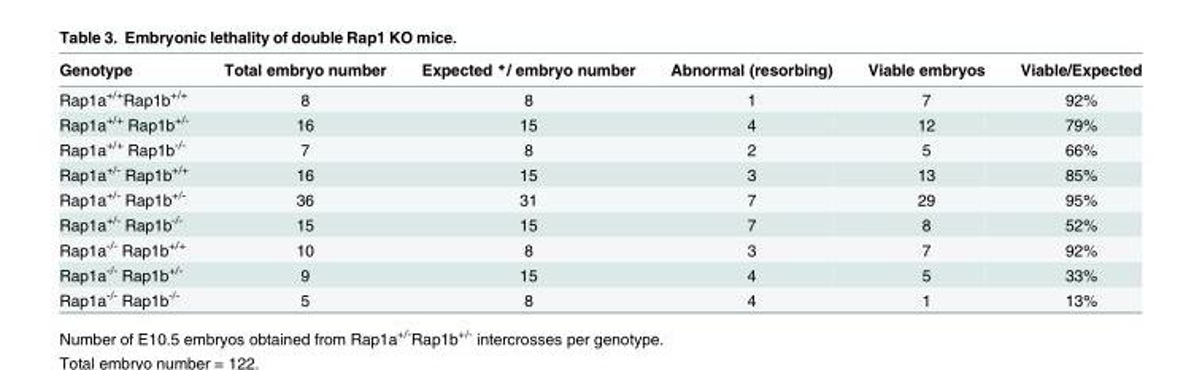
<table><thead><tr><td>Genotype</td><td>Total embryo number</td><td>Expected */ embryo number</td><td>Abnormal (resorbing)</td><td>Viable embryos</td><td>Viable/Expected</td></tr></thead><tbody><tr><td>Rap1a<sup>+/+</sup>Rap1b<sup>+/+</sup></td><td>8</td><td>8</td><td>1</td><td>7</td><td>92%</td></tr><tr><td>Rap1a<sup>+/+</sup> Rap1b<sup>+/-</sup></td><td>16</td><td>15</td><td>4</td><td>12</td><td>79%</td></tr><tr><td>Rap1a<sup>+/+</sup> Rap1b<sup>-/-</sup></td><td>7</td><td>8</td><td>2</td><td>5</td><td>66%</td></tr><tr><td>Rap1a<sup>+/-</sup> Rap1b<sup>+/+</sup></td><td>16</td><td>15</td><td>3</td><td>13</td><td>85%</td></tr><tr><td>Rap1a<sup>+/-</sup> Rap1b<sup>+/-</sup></td><td>36</td><td>31</td><td>7</td><td>29</td><td>95%</td></tr><tr><td>Rap1a<sup>+/-</sup> Rap1b<sup>-/-</sup></td><td>15</td><td>15</td><td>7</td><td>8</td><td>52%</td></tr><tr><td>Rap1a<sup>-/-</sup> Rap1b<sup>+/+</sup></td><td>10</td><td>8</td><td>3</td><td>7</td><td>92%</td></tr><tr><td>Rap1a<sup>-/-</sup> Rap1b<sup>+/-</sup></td><td>9</td><td>15</td><td>4</td><td>5</td><td>33%</td></tr><tr><td>Rap1a<sup>-/-</sup> Rap1b<sup>-/-</sup></td><td>5</td><td>8</td><td>4</td><td>1</td><td>13%</td></tr></tbody></table>